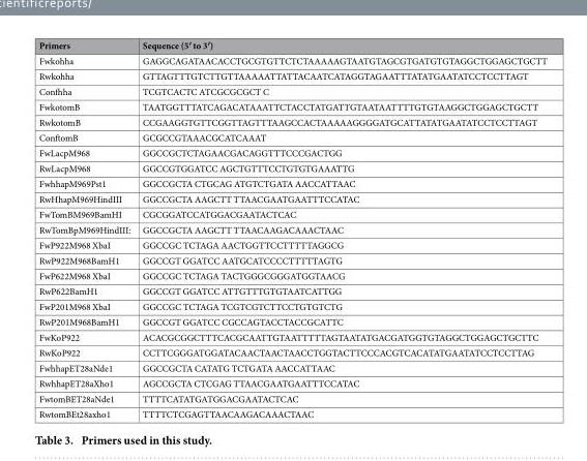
<table><thead><tr><td>Primers</td><td>Sequence (5′ to 3′)</td></tr></thead><tbody><tr><td>Fwkohha</td><td>GAGGCAGATAACACCTGCGTGTTCTCTAAAAAGTAATGTAGCGTGATGTGTAGGCTGGAGCTGCTT</td></tr><tr><td>Rwkohha</td><td>GTTAGTTTGTCTTGTTAAAAATTATTACAATCATAGGTAGAATTTATATGAATATCCTCCTTAGT</td></tr><tr><td>Confhha</td><td>TCGTCACTC ATCGCGCGCT C</td></tr><tr><td>FwkotomB</td><td>TAATGGTTTATCAGACATAAATTCTACCTATGATTGTAATAATTTTGTGTAAGGCTGGAGCTGCTT</td></tr><tr><td>RwkotomB</td><td>CCGAAGGTGTTCGGTTAGTTTAAGCCACTAAAAAGGGGATGCATTATATGAATATCCTCCTTAGT</td></tr><tr><td>ConftomB</td><td>GCGCCGTAAACGCATCAAAT</td></tr><tr><td>FwLacpM968</td><td>GGCCGCTCTAGAACGACAGGTTTCCCGACTGG</td></tr><tr><td>RwLacpM968</td><td>GGCCGTGGATCC AGCTGTTTCCTGTGTGAAATTG</td></tr><tr><td>FwhhapM969Pst1</td><td>GGCCGCTA CTGCAG ATGTCTGATA AACCATTAAC</td></tr><tr><td>RwHhapM969HindIII</td><td>GGCCGCTA AAGCTT TTAACGAATGAATTTCCATAC</td></tr><tr><td>FwTomBM969BamHI</td><td>CGCGGATCCATGGACGAATACTCAC</td></tr><tr><td>RwTomBpM969HindIII:</td><td>GGCCGCTA AAGCTT TTAACAAGACAAACTAAC</td></tr><tr><td>FwP922M968 XbaI</td><td>GGCCGC TCTAGA AACTGGTTCCTTTTTAGGCG</td></tr><tr><td>RwP922M968BamH1</td><td>GGCCGT GGATCC AATGCATCCCCTTTTTAGTG</td></tr><tr><td>FwP622M968 XbaI</td><td>GGCCGC TCTAGA TACTGGGCGGGATGGTAACG</td></tr><tr><td>RwP622BamH1</td><td>GGCCGT GGATCC ATTGTTTGTGTAATCATTGG</td></tr><tr><td>FwP201M968 XbaI</td><td>GGCCGC TCTAGA TCGTCGTCTTCCTGTGTCTG</td></tr><tr><td>RwP201M968BamH1</td><td>GGCCGT GGATCC CGCCAGTACCTACCGCATTC</td></tr><tr><td>FwKoP922</td><td>ACACGCGGCTTTCACGCAATTGTAATTTTTAGTAATATGACGATGGTGTAGGCTGGAGCTGCTTC</td></tr><tr><td>RwKoP922</td><td>CCTTCGGGATGGATACAACTAACTAACCTGGTACTTCCCACGTCACATATGAATATCCTCCTTAG</td></tr><tr><td>FwhhapET28aNde1</td><td>GGCCGCTA CATATG TCTGATA AACCATTAAC</td></tr><tr><td>RwhhapET28aXho1</td><td>AGCCGCTA CTCGAG TTAACGAATGAATTTCCATAC</td></tr><tr><td>FwtomBET28aNde1</td><td>TTTTCATATGATGGACGAATACTCAC</td></tr><tr><td>RwtomBEt28axho1</td><td>TTTTCTCGAGTTAACAAGACAAACTAAC</td></tr></tbody></table>